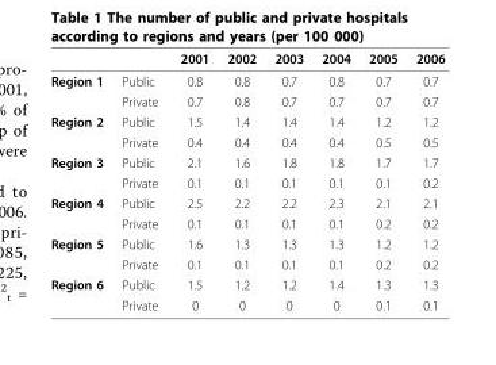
<table><thead><tr><td></td><td></td><td>2001</td><td>2002</td><td>2003</td><td>2004</td><td>2005</td><td>2006</td></tr></thead><tbody><tr><td rowspan="2">Region 1</td><td>Public</td><td>0.8</td><td>0.8</td><td>0.7</td><td>0.8</td><td>0.7</td><td>0.7</td></tr><tr><td>Private</td><td>0.7</td><td>0.8</td><td>0.7</td><td>0.7</td><td>0.7</td><td>0.7</td></tr><tr><td rowspan="2">Region 2</td><td>Public</td><td>1.5</td><td>1.4</td><td>1.4</td><td>1.4</td><td>1.2</td><td>1.2</td></tr><tr><td>Private</td><td>0.4</td><td>0.4</td><td>0.4</td><td>0.4</td><td>0.5</td><td>0.5</td></tr><tr><td rowspan="2">Region 3</td><td>Public</td><td>2.1</td><td>1.6</td><td>1.8</td><td>1.8</td><td>1.7</td><td>1.7</td></tr><tr><td>Private</td><td>0.1</td><td>0.1</td><td>0.1</td><td>0.1</td><td>0.1</td><td>0.2</td></tr><tr><td rowspan="2">Region 4</td><td>Public</td><td>2.5</td><td>2.2</td><td>2.2</td><td>2.3</td><td>2.1</td><td>2.1</td></tr><tr><td>Private</td><td>0.1</td><td>0.1</td><td>0.1</td><td>0.1</td><td>0.2</td><td>0.2</td></tr><tr><td rowspan="2">Region 5</td><td>Public</td><td>1.6</td><td>1.3</td><td>1.3</td><td>1.3</td><td>1.2</td><td>1.2</td></tr><tr><td>Private</td><td>0.1</td><td>0.1</td><td>0.1</td><td>0.1</td><td>0.2</td><td>0.2</td></tr><tr><td rowspan="2">Region 6</td><td>Public</td><td>1.5</td><td>1.2</td><td>1.2</td><td>1.4</td><td>1.3</td><td>1.3</td></tr><tr><td>Private</td><td>0</td><td>0</td><td>0</td><td>0</td><td>0.1</td><td>0.1</td></tr></tbody></table>